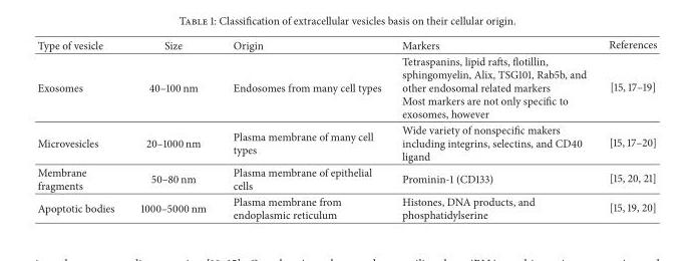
<table><thead><tr><td>Type of vesicle</td><td>Size</td><td>Origin</td><td>Markers</td><td>References</td></tr></thead><tbody><tr><td>Exosomes</td><td>40–100 nm</td><td>Endosomes from many cell types</td><td>Tetraspanins, lipid rafts, flotillin, sphingomyelin, Alix, TSG101, Rab5b, and other endosomal related markers Most markers are not only specific to exosomes, however</td><td>[15, 17–19]</td></tr><tr><td>Microvesicles</td><td>20–1000 nm</td><td>Plasma membrane of many cell types</td><td>Wide variety of nonspecific makers including integrins, selectins, and CD40 ligand</td><td>[15, 17–20]</td></tr><tr><td>Membrane fragments</td><td>50–80 nm</td><td>Plasma membrane of epithelial cells</td><td>Prominin-1 (CD133)</td><td>[15, 20, 21]</td></tr><tr><td>Apoptotic bodies</td><td>1000–5000 nm</td><td>Plasma membrane from endoplasmic reticulum</td><td>Histones, DNA products, and phosphatidylserine</td><td>[15, 19, 20]</td></tr></tbody></table>